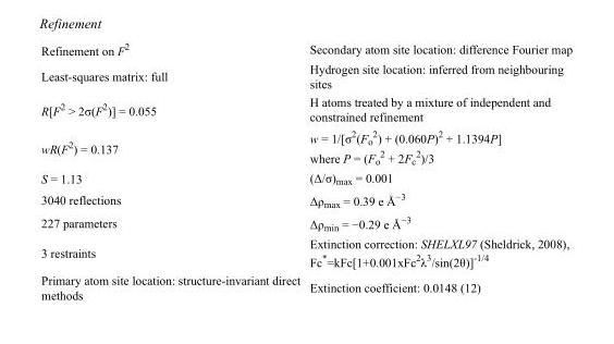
<table><tbody><tr><td>Refinement on F<sup>2</sup></td><td>Secondary atom site location: difference Fourier map</td></tr><tr><td>Least-squares matrix: full</td><td>Hydrogen site location: inferred from neighbouring sites</td></tr><tr><td>R[F<sup>2</sup> &gt; 2σ(F<sup>2</sup>)] = 0.055</td><td>H atoms treated by a mixture of independent and constrained refinement</td></tr><tr><td>wR(F<sup>2</sup>) = 0.137</td><td>w = 1/[σ<sup>2</sup>(F<sub>o</sub> <sup>2</sup>) + (0.060P)<sup>2</sup> + 1.1394P] where P = (F<sub>o</sub> <sup>2</sup> + 2F<sub>c</sub> <sup>2</sup>)/3</td></tr><tr><td>S = 1.13</td><td>(Δ/σ)<sub>max</sub> = 0.001</td></tr><tr><td>3040 reflections</td><td>Δρ<sub>max</sub> = 0.39 e Å<sup>−3</sup></td></tr><tr><td>227 parameters</td><td>Δρ<sub>min</sub> = −0.29 e Å<sup>−3</sup></td></tr><tr><td>3 restraints</td><td>Extinction correction: SHELXL97 (Sheldrick, 2008), Fc*=kFc[1+0.001xFc<sup>2</sup>λ<sup>3</sup>/sin(2θ)]<sup>-1/4</sup></td></tr><tr><td>Primary atom site location: structure-invariant direct methods</td><td>Extinction coefficient: 0.0148 (12)</td></tr></tbody></table>